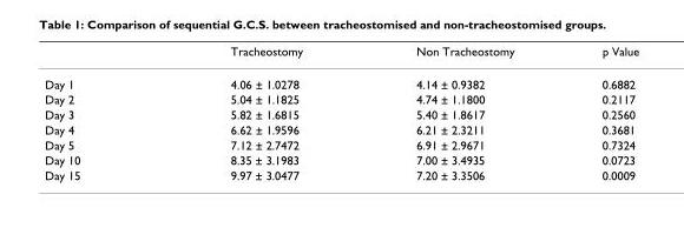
<table><thead><tr><td></td><td>Tracheostomy</td><td>Non Tracheostomy</td><td>p Value</td></tr></thead><tbody><tr><td>Day 1</td><td>4.06 ± 1.0278</td><td>4.14 ± 0.9382</td><td>0.6882</td></tr><tr><td>Day 2</td><td>5.04 ± 1.1825</td><td>4.74 ± 1.1800</td><td>0.2117</td></tr><tr><td>Day 3</td><td>5.82 ± 1.6815</td><td>5.40 ± 1.8617</td><td>0.2560</td></tr><tr><td>Day 4</td><td>6.62 ± 1.9596</td><td>6.21 ± 2.3211</td><td>0.3681</td></tr><tr><td>Day 5</td><td>7.12 ± 2.7472</td><td>6.91 ± 2.9671</td><td>0.7324</td></tr><tr><td>Day 10</td><td>8.35 ± 3.1983</td><td>7.00 ± 3.4935</td><td>0.0723</td></tr><tr><td>Day 15</td><td>9.97 ± 3.0477</td><td>7.20 ± 3.3506</td><td>0.0009</td></tr></tbody></table>